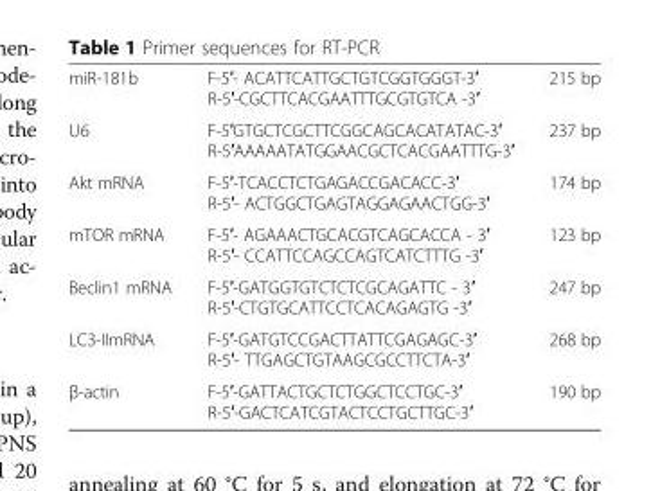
<table><tbody><tr><td>miR-181b</td><td>F-5′- ACATTCATTGCTGTCGGTGGGT-3′ R-5′-CGCTTCACGAATTTGCGTGTCA -3′</td><td>215 bp</td></tr><tr><td>U6</td><td>F-5′GTGCTCGCTTCGGCAGCACATATAC-3′ R-5′AAAAATATGGAACGCTCACGAATTTG-3′</td><td>237 bp</td></tr><tr><td>Akt mRNA</td><td>F-5′-TCACCTCTGAGACCGACACC-3′ R-5′- ACTGGCTGAGTAGGAGAACTGG-3′</td><td>174 bp</td></tr><tr><td>mTOR mRNA</td><td>F-5′- AGAAACTGCACGTCAGCACCA - 3′ R-5′- CCATTCCAGCCAGTCATCTTTG -3′</td><td>123 bp</td></tr><tr><td>Beclin1 mRNA</td><td>F-5′-GATGGTGTCTCTCGCAGATTC - 3′ R-5′-CTGTGCATTCCTCACAGAGTG -3′</td><td>247 bp</td></tr><tr><td>LC3-IImRNA</td><td>F-5′-GATGTCCGACTTATTCGAGAGC-3′ R-5′- TTGAGCTGTAAGCGCCTTCTA-3′</td><td>268 bp</td></tr><tr><td>β-actin</td><td>F-5′-GATTACTGCTCTGGCTCCTGC-3′ R-5′-GACTCATCGTACTCCTGCTTGC-3′</td><td>190 bp</td></tr></tbody></table>